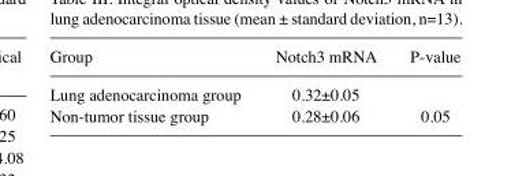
<table><thead><tr><td>Group</td><td>Notch3 mRNA</td><td>P-value</td></tr></thead><tbody><tr><td>Lung adenocarcinoma group</td><td>0.32±0.05</td><td></td></tr><tr><td>Non-tumor tissue group</td><td>0.28±0.06</td><td>0.05</td></tr></tbody></table>